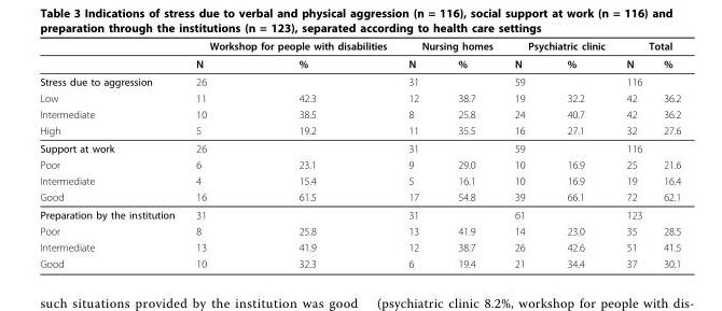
<table><thead><tr><td rowspan="2"></td><td colspan="2">Workshop for people with disabilities</td><td colspan="2">Nursing homes</td><td colspan="2">Psychiatric clinic</td><td colspan="2">Total</td></tr><tr><td>N</td><td>%</td><td>N</td><td>%</td><td>N</td><td>%</td><td>N</td><td>%</td></tr></thead><tbody><tr><td>Stress due to aggression</td><td>26</td><td></td><td>31</td><td></td><td>59</td><td></td><td>116</td><td></td></tr><tr><td>Low</td><td>11</td><td>42.3</td><td>12</td><td>38.7</td><td>19</td><td>32.2</td><td>42</td><td>36.2</td></tr><tr><td>Intermediate</td><td>10</td><td>38.5</td><td>8</td><td>25.8</td><td>24</td><td>40.7</td><td>42</td><td>36.2</td></tr><tr><td>High</td><td>5</td><td>19.2</td><td>11</td><td>35.5</td><td>16</td><td>27.1</td><td>32</td><td>27.6</td></tr><tr><td>Support at work</td><td>26</td><td></td><td>31</td><td></td><td>59</td><td></td><td>116</td><td></td></tr><tr><td>Poor</td><td>6</td><td>23.1</td><td>9</td><td>29.0</td><td>10</td><td>16.9</td><td>25</td><td>21.6</td></tr><tr><td>Intermediate</td><td>4</td><td>15.4</td><td>5</td><td>16.1</td><td>10</td><td>16.9</td><td>19</td><td>16.4</td></tr><tr><td>Good</td><td>16</td><td>61.5</td><td>17</td><td>54.8</td><td>39</td><td>66.1</td><td>72</td><td>62.1</td></tr><tr><td>Preparation by the institution</td><td>31</td><td></td><td>31</td><td></td><td>61</td><td></td><td>123</td><td></td></tr><tr><td>Poor</td><td>8</td><td>25.8</td><td>13</td><td>41.9</td><td>14</td><td>23.0</td><td>35</td><td>28.5</td></tr><tr><td>Intermediate</td><td>13</td><td>41.9</td><td>12</td><td>38.7</td><td>26</td><td>42.6</td><td>51</td><td>41.5</td></tr><tr><td>Good</td><td>10</td><td>32.3</td><td>6</td><td>19.4</td><td>21</td><td>34.4</td><td>37</td><td>30.1</td></tr></tbody></table>